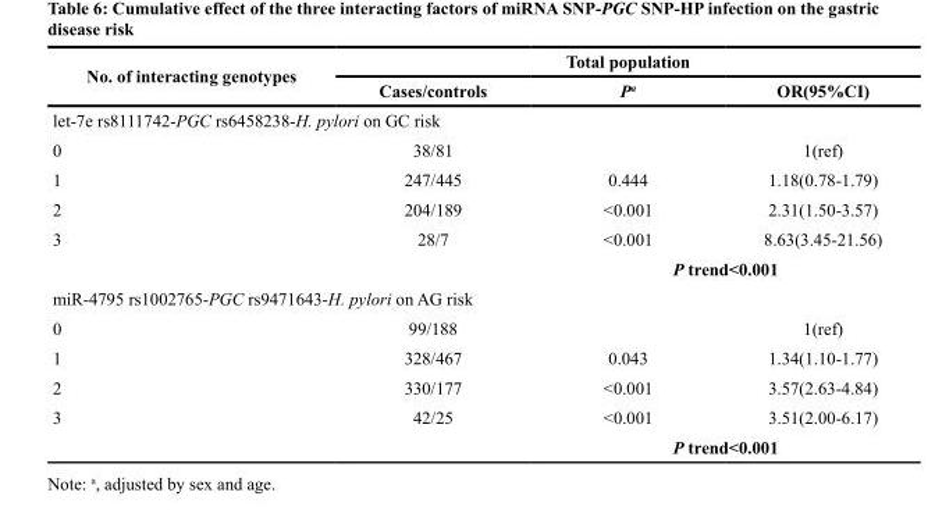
<table><thead><tr><td rowspan="2">No. of interacting genotypes</td><td colspan="3">Total population</td></tr><tr><td>Cases/controls</td><td>P<sup>a</sup></td><td>OR(95%CI)</td></tr></thead><tbody><tr><td colspan="4">let-7e rs8111742-PGC rs6458238-H. pylori on GC risk</td></tr><tr><td>0</td><td>38/81</td><td></td><td>1(ref)</td></tr><tr><td>1</td><td>247/445</td><td>0.444</td><td>1.18(0.78-1.79)</td></tr><tr><td>2</td><td>204/189</td><td>&lt;0.001</td><td>2.31(1.50-3.57)</td></tr><tr><td rowspan="2">3</td><td>28/7</td><td>&lt;0.001</td><td>8.63(3.45-21.56)</td></tr><tr><td></td><td colspan="2">P trend&lt;0.001</td></tr><tr><td colspan="4">miR-4795 rs1002765-PGC rs9471643-H. pylori on AG risk</td></tr><tr><td>0</td><td>99/188</td><td></td><td>1(ref)</td></tr><tr><td>1</td><td>328/467</td><td>0.043</td><td>1.34(1.10-1.77)</td></tr><tr><td>2</td><td>330/177</td><td>&lt;0.001</td><td>3.57(2.63-4.84)</td></tr><tr><td rowspan="2">3</td><td>42/25</td><td>&lt;0.001</td><td>3.51(2.00-6.17)</td></tr><tr><td></td><td colspan="2">P trend&lt;0.001</td></tr></tbody></table>